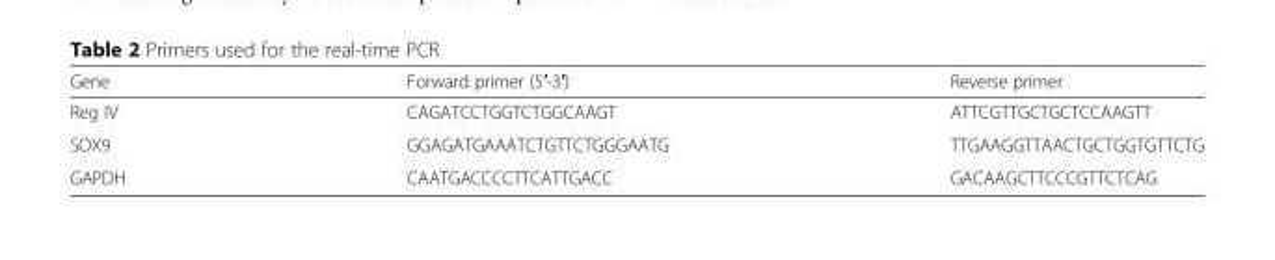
<table><thead><tr><td>Gene</td><td>Forward primer (5′-3′)</td><td>Reverse primer</td></tr></thead><tbody><tr><td>Reg IV</td><td>CAGATCCTGGTCTGGCAAGT</td><td>ATTCGTTGCTGCTCCAAGTT</td></tr><tr><td>SOX9</td><td>GGAGATGAAATCTGTTCTGGGAATG</td><td>TTGAAGGTTAACTGCTGGTGTTCTG</td></tr><tr><td>GAPDH</td><td>CAATGACCCCTTCATTGACC</td><td>GACAAGCTTCCCGTTCTCAG</td></tr></tbody></table>